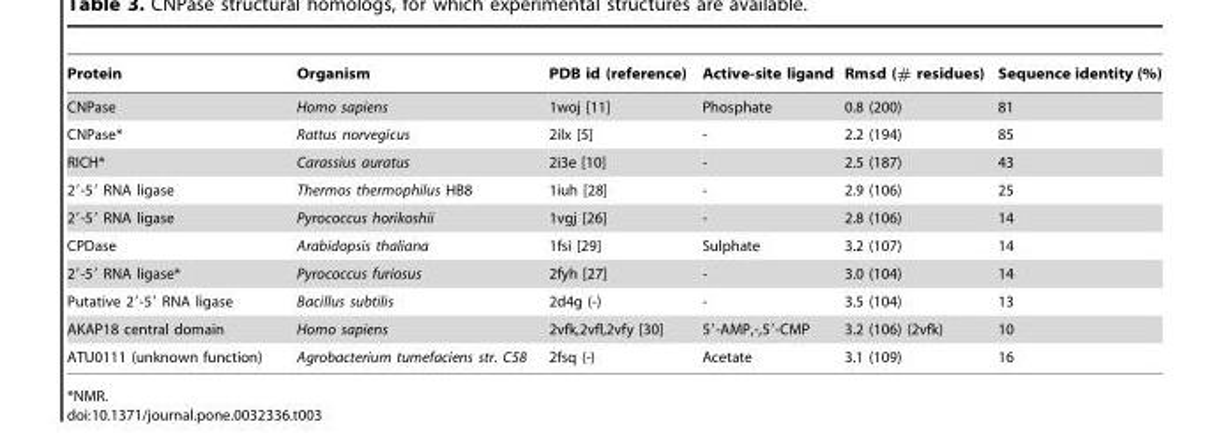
<table><thead><tr><td>Protein</td><td>Organism</td><td>PDB id (reference)</td><td>Active-site ligand</td><td>Rmsd (# residues)</td><td>Sequence identity (%)</td></tr></thead><tbody><tr><td>CNPase</td><td>Homo sapiens</td><td>1woj [11]</td><td>Phosphate</td><td>0.8 (200)</td><td>81</td></tr><tr><td>CNPase*</td><td>Rattus norvegicus</td><td>2ilx [5]</td><td>-</td><td>2.2 (194)</td><td>85</td></tr><tr><td>RICH*</td><td>Carassius auratus</td><td>2i3e [10]</td><td>-</td><td>2.5 (187)</td><td>43</td></tr><tr><td>2′-5′ RNA ligase</td><td>Thermos thermophilus HB8</td><td>1iuh [28]</td><td>-</td><td>2.9 (106)</td><td>25</td></tr><tr><td>2′-5′ RNA ligase</td><td>Pyrococcus horikoshii</td><td>1vgj [26]</td><td>-</td><td>2.8 (106)</td><td>14</td></tr><tr><td>CPDase</td><td>Arabidopsis thaliana</td><td>1fsi [29]</td><td>Sulphate</td><td>3.2 (107)</td><td>14</td></tr><tr><td>2′-5′ RNA ligase*</td><td>Pyrococcus furiosus</td><td>2fyh [27]</td><td>-</td><td>3.0 (104)</td><td>14</td></tr><tr><td>Putative 2′-5′ RNA ligase</td><td>Bacillus subtilis</td><td>2d4g (-)</td><td>-</td><td>3.5 (104)</td><td>13</td></tr><tr><td>AKAP18 central domain</td><td>Homo sapiens</td><td>2vfk,2vfl,2vfy [30]</td><td>5′-AMP,-,5′-CMP</td><td>3.2 (106) (2vfk)</td><td>10</td></tr><tr><td>ATU0111 (unknown function)</td><td>Agrobacterium tumefaciens str. C58</td><td>2fsq (-)</td><td>Acetate</td><td>3.1 (109)</td><td>16</td></tr></tbody></table>